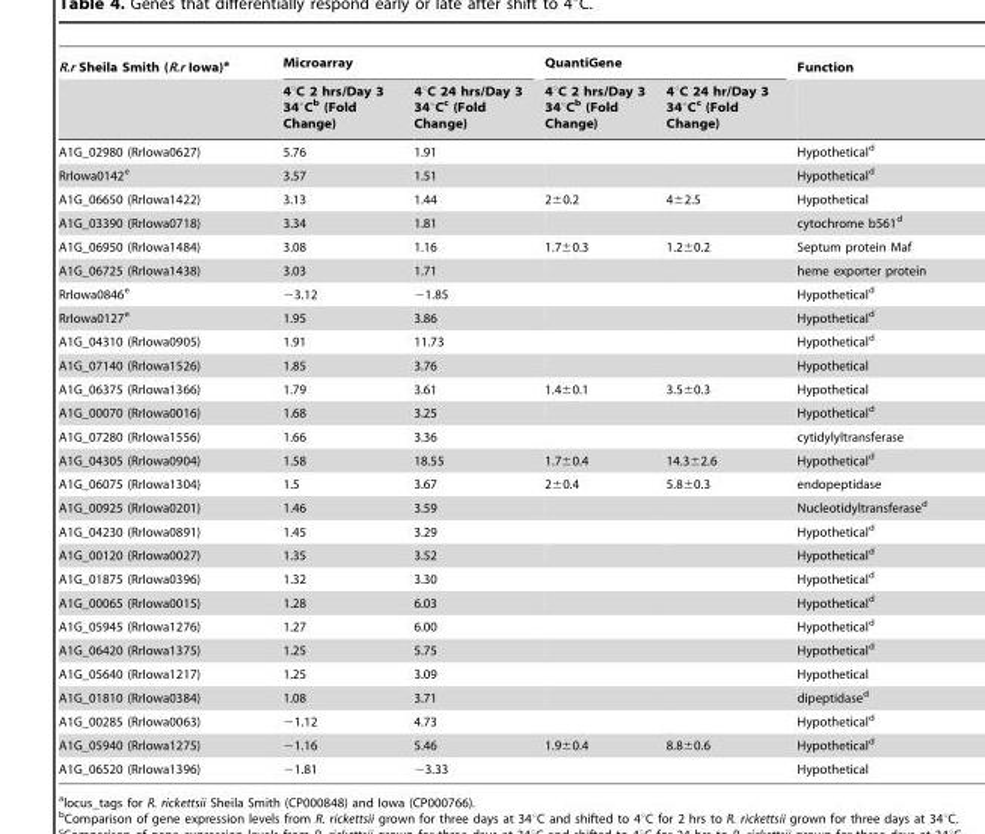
<table><thead><tr><td rowspan="2">R.r Sheila Smith (R.r Iowa)<sup>a</sup></td><td colspan="2">Microarray</td><td colspan="2">QuantiGene</td><td rowspan="2">Function</td></tr><tr><td>4°C 2 hrs/Day 3 34°C<sup>b</sup> (Fold Change)</td><td>4°C 24 hrs/Day 3 34°C<sup>c</sup> (Fold Change)</td><td>4°C 2 hrs/Day 3 34°C<sup>b</sup> (Fold Change)</td><td>4°C 24 hr/Day 3 34°C<sup>c</sup> (Fold Change)</td></tr></thead><tbody><tr><td>A1G_02980 (RrIowa0627)</td><td>5.76</td><td>1.91</td><td></td><td></td><td>Hypothetical<sup>d</sup></td></tr><tr><td>RrIowa0142<sup>e</sup></td><td>3.57</td><td>1.51</td><td></td><td></td><td>Hypothetical<sup>d</sup></td></tr><tr><td>A1G_06650 (RrIowa1422)</td><td>3.13</td><td>1.44</td><td>2±0.2</td><td>4±2.5</td><td>Hypothetical</td></tr><tr><td>A1G_03390 (RrIowa0718)</td><td>3.34</td><td>1.81</td><td></td><td></td><td>cytochrome b561<sup>d</sup></td></tr><tr><td>A1G_06950 (RrIowa1484)</td><td>3.08</td><td>1.16</td><td>1.7±0.3</td><td>1.2±0.2</td><td>Septum protein Maf</td></tr><tr><td>A1G_06725 (RrIowa1438)</td><td>3.03</td><td>1.71</td><td></td><td></td><td>heme exporter protein</td></tr><tr><td>RrIowa0846<sup>e</sup></td><td>−3.12</td><td>−1.85</td><td></td><td></td><td>Hypothetical<sup>d</sup></td></tr><tr><td>RrIowa0127<sup>e</sup></td><td>1.95</td><td>3.86</td><td></td><td></td><td>Hypothetical<sup>d</sup></td></tr><tr><td>A1G_04310 (RrIowa0905)</td><td>1.91</td><td>11.73</td><td></td><td></td><td>Hypothetical<sup>d</sup></td></tr><tr><td>A1G_07140 (RrIowa1526)</td><td>1.85</td><td>3.76</td><td></td><td></td><td>Hypothetical</td></tr><tr><td>A1G_06375 (RrIowa1366)</td><td>1.79</td><td>3.61</td><td>1.4±0.1</td><td>3.5±0.3</td><td>Hypothetical</td></tr><tr><td>A1G_00070 (RrIowa0016)</td><td>1.68</td><td>3.25</td><td></td><td></td><td>Hypothetical<sup>d</sup></td></tr><tr><td>A1G_07280 (RrIowa1556)</td><td>1.66</td><td>3.36</td><td></td><td></td><td>cytidylyltransferase</td></tr><tr><td>A1G_04305 (RrIowa0904)</td><td>1.58</td><td>18.55</td><td>1.7±0.4</td><td>14.3±2.6</td><td>Hypothetical<sup>d</sup></td></tr><tr><td>A1G_06075 (RrIowa1304)</td><td>1.5</td><td>3.67</td><td>2±0.4</td><td>5.8±0.3</td><td>endopeptidase</td></tr><tr><td>A1G_00925 (RrIowa0201)</td><td>1.46</td><td>3.59</td><td></td><td></td><td>Nucleotidyltransferase<sup>d</sup></td></tr><tr><td>A1G_04230 (RrIowa0891)</td><td>1.45</td><td>3.29</td><td></td><td></td><td>Hypothetical<sup>d</sup></td></tr><tr><td>A1G_00120 (RrIowa0027)</td><td>1.35</td><td>3.52</td><td></td><td></td><td>Hypothetical<sup>d</sup></td></tr><tr><td>A1G_01875 (RrIowa0396)</td><td>1.32</td><td>3.30</td><td></td><td></td><td>Hypothetical<sup>d</sup></td></tr><tr><td>A1G_00065 (RrIowa0015)</td><td>1.28</td><td>6.03</td><td></td><td></td><td>Hypothetical<sup>d</sup></td></tr><tr><td>A1G_05945 (RrIowa1276)</td><td>1.27</td><td>6.00</td><td></td><td></td><td>Hypothetical<sup>d</sup></td></tr><tr><td>A1G_06420 (RrIowa1375)</td><td>1.25</td><td>5.75</td><td></td><td></td><td>Hypothetical<sup>d</sup></td></tr><tr><td>A1G_05640 (RrIowa1217)</td><td>1.25</td><td>3.09</td><td></td><td></td><td>Hypothetical</td></tr><tr><td>A1G_01810 (RrIowa0384)</td><td>1.08</td><td>3.71</td><td></td><td></td><td>dipeptidase<sup>d</sup></td></tr><tr><td>A1G_00285 (RrIowa0063)</td><td>−1.12</td><td>4.73</td><td></td><td></td><td>Hypothetical<sup>d</sup></td></tr><tr><td>A1G_05940 (RrIowa1275)</td><td>−1.16</td><td>5.46</td><td>1.9±0.4</td><td>8.8±0.6</td><td>Hypothetical<sup>d</sup></td></tr><tr><td>A1G_06520 (RrIowa1396)</td><td>−1.81</td><td>−3.33</td><td></td><td></td><td>Hypothetical</td></tr></tbody></table>